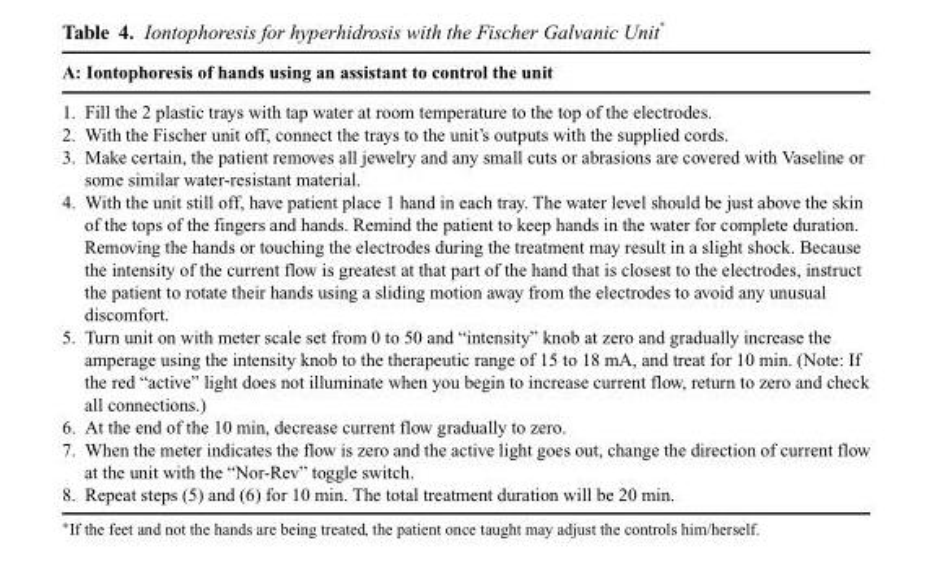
<table><thead><tr><td colspan="2">A: Iontophoresis of hands using an assistant to control the unit</td></tr><tr><td>1.</td><td>Fill the 2 plastic trays with tap water at room temperature to the top of the electrodes.</td></tr></thead><tbody><tr><td>2.</td><td>With the Fischer unit off, connect the trays to the unit’s outputs with the supplied cords.</td></tr><tr><td>3.</td><td>Make certain, the patient removes all jewelry and any small cuts or abrasions are covered with Vaseline or some similar water-resistant material.</td></tr><tr><td>4.</td><td>With the unit still off, have patient place 1 hand in each tray. The water level should be just above the skin of the tops of the fingers and hands. Remind the patient to keep hands in the water for complete duration. Removing the hands or touching the electrodes during the treatment may result in a slight shock. Because the intensity of the current flow is greatest at that part of the hand that is closest to the electrodes, instruct the patient to rotate their hands using a sliding motion away from the electrodes to avoid any unusual discomfort.</td></tr><tr><td>5.</td><td>Turn unit on with meter scale set from 0 to 50 and “intensity” knob at zero and gradually increase the amperage using the intensity knob to the therapeutic range of 15 to 18 mA, and treat for 10 min. (Note: If the red “active” light does not illuminate when you begin to increase current flow, return to zero and check all connections.)</td></tr><tr><td>6.</td><td>At the end of the 10 min, decrease current flow gradually to zero.</td></tr><tr><td>7.</td><td>When the meter indicates the flow is zero and the active light goes out, change the direction of current flow at the unit with the “Nor-Rev” toggle switch.</td></tr><tr><td>8.</td><td>Repeat steps (5) and (6) for 10 min. The total treatment duration will be 20 min.</td></tr></tbody></table>